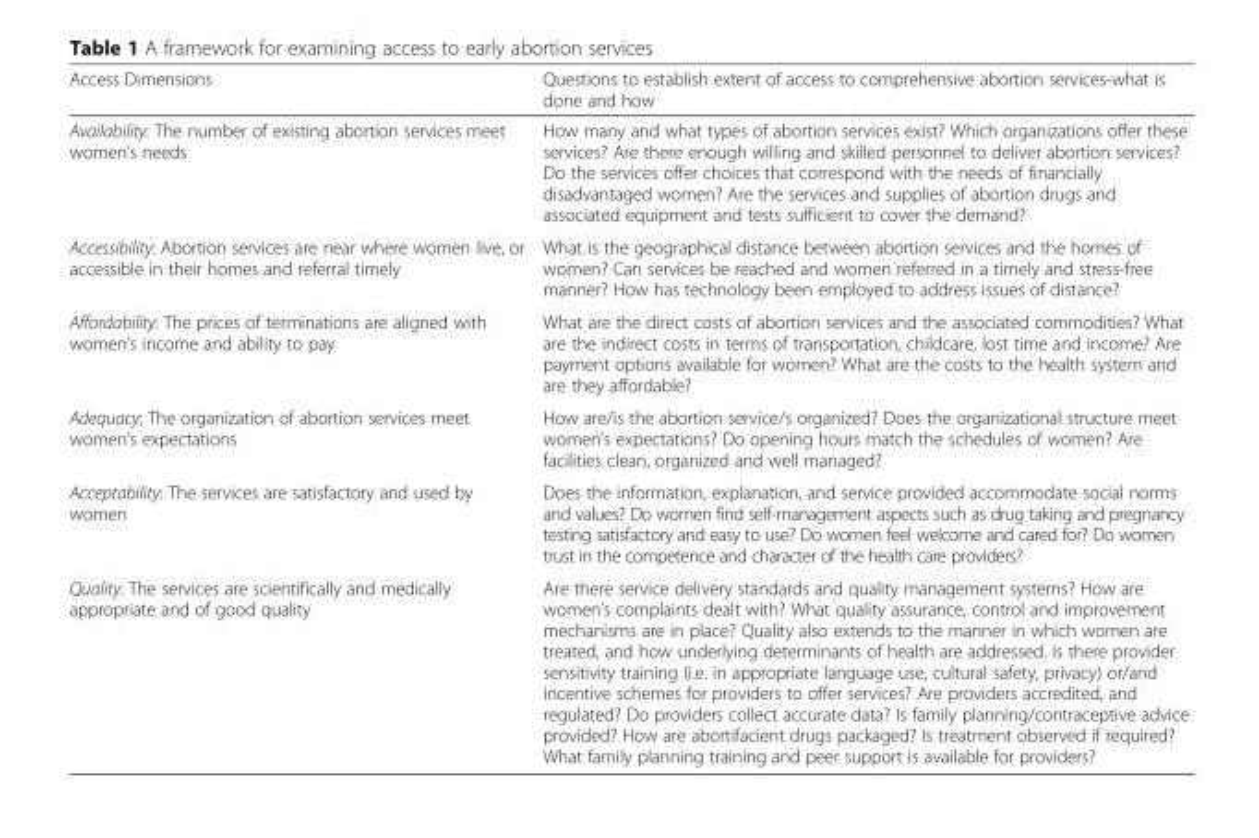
<table><thead><tr><td>Access Dimensions</td><td>Questions to establish extent of access to comprehensive abortion services-what is done and how</td></tr></thead><tbody><tr><td>Availability: The number of existing abortion services meet women’s needs</td><td>How many and what types of abortion services exist? Which organizations offer these services? Are there enough willing and skilled personnel to deliver abortion services? Do the services offer choices that correspond with the needs of financially disadvantaged women? Are the services and supplies of abortion drugs and associated equipment and tests sufficient to cover the demand?</td></tr><tr><td>Accessibility: Abortion services are near where women live, or accessible in their homes and referral timely</td><td>What is the geographical distance between abortion services and the homes of women? Can services be reached and women referred in a timely and stress-free manner? How has technology been employed to address issues of distance?</td></tr><tr><td>Affordability: The prices of terminations are aligned with women’s income and ability to pay</td><td>What are the direct costs of abortion services and the associated commodities? What are the indirect costs in terms of transportation, childcare, lost time and income? Are payment options available for women? What are the costs to the health system and are they affordable?</td></tr><tr><td>Adequacy: The organization of abortion services meet women’s expectations</td><td>How are/is the abortion service/s organized? Does the organizational structure meet women’s expectations? Do opening hours match the schedules of women? Are facilities clean, organized and well managed?</td></tr><tr><td>Acceptability: The services are satisfactory and used by women</td><td>Does the information, explanation, and service provided accommodate social norms and values? Do women find self-management aspects such as drug taking and pregnancy testing satisfactory and easy to use? Do women feel welcome and cared for? Do women trust in the competence and character of the health care providers?</td></tr><tr><td>Quality: The services are scientifically and medically appropriate and of good quality</td><td>Are there service delivery standards and quality management systems? How are women’s complaints dealt with? What quality assurance, control and improvement mechanisms are in place? Quality also extends to the manner in which women are treated, and how underlying determinants of health are addressed. Is there provider sensitivity training (i.e. in appropriate language use, cultural safety, privacy) or/and incentive schemes for providers to offer services? Are providers accredited, and regulated? Do providers collect accurate data? Is family planning/contraceptive advice provided? How are abortifacient drugs packaged? Is treatment observed if required? What family planning training and peer support is available for providers?</td></tr></tbody></table>